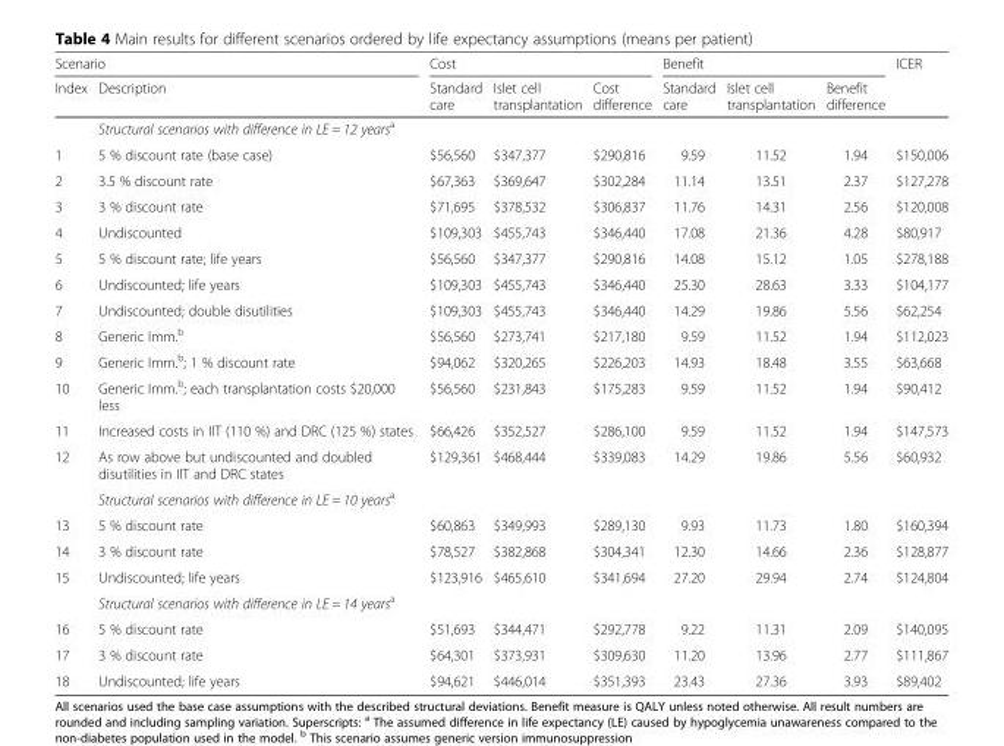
<table><thead><tr><td colspan="2">Scenario</td><td colspan="3">Cost</td><td colspan="3">Benefit</td><td rowspan="2">ICER</td></tr><tr><td>Index</td><td>Description</td><td>Standard care</td><td>Islet cell transplantation</td><td>Cost difference</td><td>Standard care</td><td>Islet cell transplantation</td><td>Benefit difference</td></tr></thead><tbody><tr><td></td><td colspan="8">Structural scenarios with difference in LE = 12 years<sup>a</sup></td></tr><tr><td>1</td><td>5 % discount rate (base case)</td><td>$56,560</td><td>$347,377</td><td>$290,816</td><td>9.59</td><td>11.52</td><td>1.94</td><td>$150,006</td></tr><tr><td>2</td><td>3.5 % discount rate</td><td>$67,363</td><td>$369,647</td><td>$302,284</td><td>11.14</td><td>13.51</td><td>2.37</td><td>$127,278</td></tr><tr><td>3</td><td>3 % discount rate</td><td>$71,695</td><td>$378,532</td><td>$306,837</td><td>11.76</td><td>14.31</td><td>2.56</td><td>$120,008</td></tr><tr><td>4</td><td>Undiscounted</td><td>$109,303</td><td>$455,743</td><td>$346,440</td><td>17.08</td><td>21.36</td><td>4.28</td><td>$80,917</td></tr><tr><td>5</td><td>5 % discount rate; life years</td><td>$56,560</td><td>$347,377</td><td>$290,816</td><td>14.08</td><td>15.12</td><td>1.05</td><td>$278,188</td></tr><tr><td>6</td><td>Undiscounted; life years</td><td>$109,303</td><td>$455,743</td><td>$346,440</td><td>25.30</td><td>28.63</td><td>3.33</td><td>$104,177</td></tr><tr><td>7</td><td>Undiscounted; double disutilities</td><td>$109,303</td><td>$455,743</td><td>$346,440</td><td>14.29</td><td>19.86</td><td>5.56</td><td>$62,254</td></tr><tr><td>8</td><td>Generic Imm.<sup>b</sup></td><td>$56,560</td><td>$273,741</td><td>$217,180</td><td>9.59</td><td>11.52</td><td>1.94</td><td>$112,023</td></tr><tr><td>9</td><td>Generic Imm.<sup>b</sup>; 1 % discount rate</td><td>$94,062</td><td>$320,265</td><td>$226,203</td><td>14.93</td><td>18.48</td><td>3.55</td><td>$63,668</td></tr><tr><td>10</td><td>Generic Imm.<sup>b</sup>; each transplantation costs $20,000 less</td><td>$56,560</td><td>$231,843</td><td>$175,283</td><td>9.59</td><td>11.52</td><td>1.94</td><td>$90,412</td></tr><tr><td>11</td><td>Increased costs in IIT (110 %) and DRC (125 %) states</td><td>$66,426</td><td>$352,527</td><td>$286,100</td><td>9.59</td><td>11.52</td><td>1.94</td><td>$147,573</td></tr><tr><td rowspan="2">12</td><td>As row above but undiscounted and doubled disutilities in IIT and DRC states</td><td>$129,361</td><td>$468,444</td><td>$339,083</td><td>14.29</td><td>19.86</td><td>5.56</td><td>$60,932</td></tr><tr><td colspan="8">Structural scenarios with difference in LE = 10 years<sup>a</sup></td></tr><tr><td>13</td><td>5 % discount rate</td><td>$60,863</td><td>$349,993</td><td>$289,130</td><td>9.93</td><td>11.73</td><td>1.80</td><td>$160,394</td></tr><tr><td>14</td><td>3 % discount rate</td><td>$78,527</td><td>$382,868</td><td>$304,341</td><td>12.30</td><td>14.66</td><td>2.36</td><td>$128,877</td></tr><tr><td rowspan="2">15</td><td>Undiscounted; life years</td><td>$123,916</td><td>$465,610</td><td>$341,694</td><td>27.20</td><td>29.94</td><td>2.74</td><td>$124,804</td></tr><tr><td colspan="8">Structural scenarios with difference in LE = 14 years<sup>a</sup></td></tr><tr><td>16</td><td>5 % discount rate</td><td>$51,693</td><td>$344,471</td><td>$292,778</td><td>9.22</td><td>11.31</td><td>2.09</td><td>$140,095</td></tr><tr><td>17</td><td>3 % discount rate</td><td>$64,301</td><td>$373,931</td><td>$309,630</td><td>11.20</td><td>13.96</td><td>2.77</td><td>$111,867</td></tr><tr><td>18</td><td>Undiscounted; life years</td><td>$94,621</td><td>$446,014</td><td>$351,393</td><td>23.43</td><td>27.36</td><td>3.93</td><td>$89,402</td></tr></tbody></table>